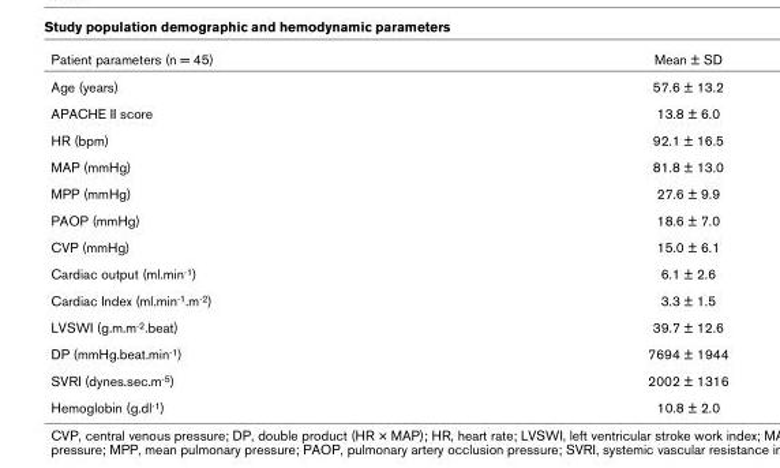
<table><thead><tr><td>Patient parameters (n = 45)</td><td>Mean ± SD</td></tr></thead><tbody><tr><td>Age (years)</td><td>57.6 ± 13.2</td></tr><tr><td>APACHE II score</td><td>13.8 ± 6.0</td></tr><tr><td>HR (bpm)</td><td>92.1 ± 16.5</td></tr><tr><td>MAP (mmHg)</td><td>81.8 ± 13.0</td></tr><tr><td>MPP (mmHg)</td><td>27.6 ± 9.9</td></tr><tr><td>PAOP (mmHg)</td><td>18.6 ± 7.0</td></tr><tr><td>CVP (mmHg)</td><td>15.0 ± 6.1</td></tr><tr><td>Cardiac output (ml.min-1)</td><td>6.1 ± 2.6</td></tr><tr><td>Cardiac Index (ml.min-1.m-2)</td><td>3.3 ± 1.5</td></tr><tr><td>LVSWI (g.m.m-2.beat)</td><td>39.7 ± 12.6</td></tr><tr><td>DP (mmHg.beat.min-1)</td><td>7694 ± 1944</td></tr><tr><td>SVRI (dynes.sec.m-5)</td><td>2002 ± 1316</td></tr><tr><td>Hemoglobin (g.dl-1)</td><td>10.8 ± 2.0</td></tr></tbody></table>